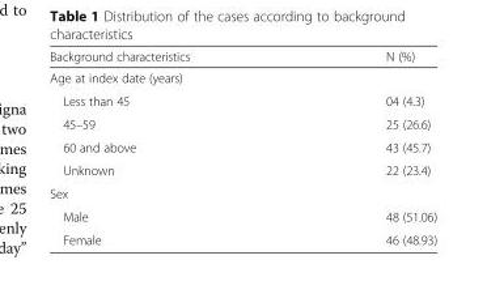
<table><thead><tr><td>Background characteristics</td><td>N (%)</td></tr></thead><tbody><tr><td colspan="2">Age at index date (years)</td></tr><tr><td>Less than 45</td><td>04 (4.3)</td></tr><tr><td>45–59</td><td>25 (26.6)</td></tr><tr><td>60 and above</td><td>43 (45.7)</td></tr><tr><td>Unknown</td><td>22 (23.4)</td></tr><tr><td colspan="2">Sex</td></tr><tr><td>Male</td><td>48 (51.06)</td></tr><tr><td>Female</td><td>46 (48.93)</td></tr></tbody></table>